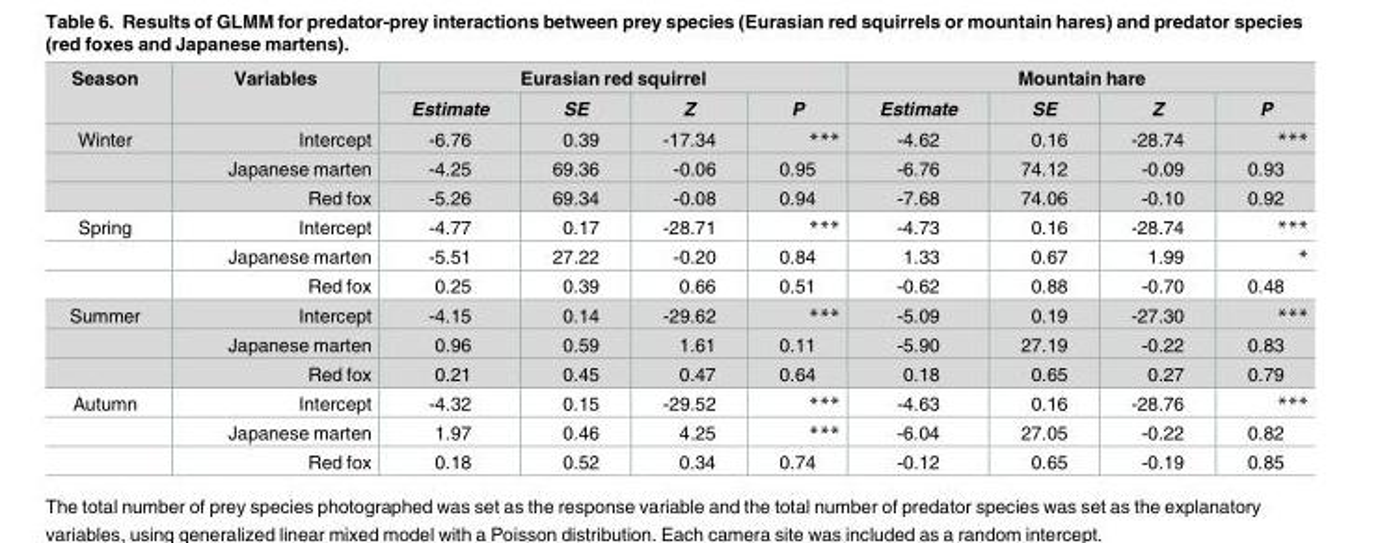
<table><thead><tr><td rowspan="2">Season</td><td rowspan="2">Variables</td><td colspan="4">Eurasian red squirrel</td><td colspan="4">Mountain hare</td></tr><tr><td>Estimate</td><td>SE</td><td>Z</td><td>P</td><td>Estimate</td><td>SE</td><td>Z</td><td>P</td></tr></thead><tbody><tr><td rowspan="3">Winter</td><td>Intercept</td><td>-6.76</td><td>0.39</td><td>-17.34</td><td>***</td><td>-4.62</td><td>0.16</td><td>-28.74</td><td>***</td></tr><tr><td>Japanese marten</td><td>-4.25</td><td>69.36</td><td>-0.06</td><td>0.95</td><td>-6.76</td><td>74.12</td><td>-0.09</td><td>0.93</td></tr><tr><td>Red fox</td><td>-5.26</td><td>69.34</td><td>-0.08</td><td>0.94</td><td>-7.68</td><td>74.06</td><td>-0.10</td><td>0.92</td></tr><tr><td rowspan="3">Spring</td><td>Intercept</td><td>-4.77</td><td>0.17</td><td>-28.71</td><td>***</td><td>-4.73</td><td>0.16</td><td>-28.74</td><td>***</td></tr><tr><td>Japanese marten</td><td>-5.51</td><td>27.22</td><td>-0.20</td><td>0.84</td><td>1.33</td><td>0.67</td><td>1.99</td><td>*</td></tr><tr><td>Red fox</td><td>0.25</td><td>0.39</td><td>0.66</td><td>0.51</td><td>-0.62</td><td>0.88</td><td>-0.70</td><td>0.48</td></tr><tr><td rowspan="3">Summer</td><td>Intercept</td><td>-4.15</td><td>0.14</td><td>-29.62</td><td>***</td><td>-5.09</td><td>0.19</td><td>-27.30</td><td>***</td></tr><tr><td>Japanese marten</td><td>0.96</td><td>0.59</td><td>1.61</td><td>0.11</td><td>-5.90</td><td>27.19</td><td>-0.22</td><td>0.83</td></tr><tr><td>Red fox</td><td>0.21</td><td>0.45</td><td>0.47</td><td>0.64</td><td>0.18</td><td>0.65</td><td>0.27</td><td>0.79</td></tr><tr><td rowspan="3">Autumn</td><td>Intercept</td><td>-4.32</td><td>0.15</td><td>-29.52</td><td>***</td><td>-4.63</td><td>0.16</td><td>-28.76</td><td>***</td></tr><tr><td>Japanese marten</td><td>1.97</td><td>0.46</td><td>4.25</td><td>***</td><td>-6.04</td><td>27.05</td><td>-0.22</td><td>0.82</td></tr><tr><td>Red fox</td><td>0.18</td><td>0.52</td><td>0.34</td><td>0.74</td><td>-0.12</td><td>0.65</td><td>-0.19</td><td>0.85</td></tr></tbody></table>